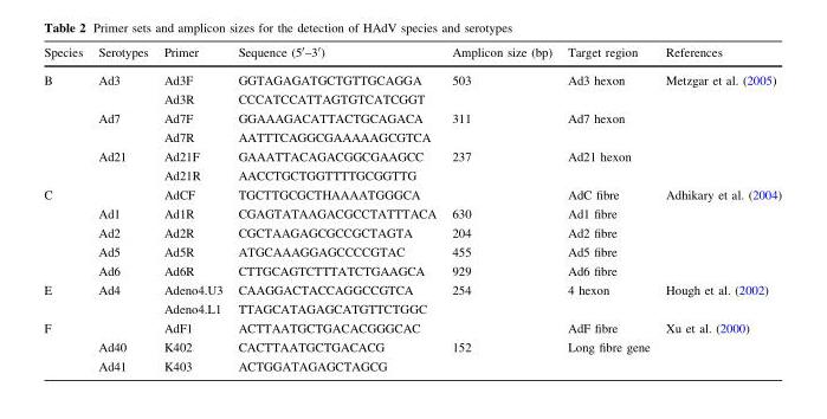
<table><thead><tr><td>Species</td><td>Serotypes</td><td>Primer</td><td>Sequence (5′–3′)</td><td>Amplicon size (bp)</td><td>Target region</td><td>References</td></tr></thead><tbody><tr><td rowspan="6">B</td><td rowspan="2">Ad3</td><td>Ad3F</td><td>GGTAGAGATGCTGTTGCAGGA</td><td rowspan="2">503</td><td rowspan="2">Ad3 hexon</td><td rowspan="2">Metzgar et al. (2005)</td></tr><tr><td>Ad3R</td><td>CCCATCCATTAGTGTCATCGGT</td></tr><tr><td rowspan="2">Ad7</td><td>Ad7F</td><td>GGAAAGACATTACTGCAGACA</td><td rowspan="2">311</td><td rowspan="2">Ad7 hexon</td><td rowspan="2"></td></tr><tr><td>Ad7R</td><td>AATTTCAGGCGAAAAAGCGTCA</td></tr><tr><td rowspan="2">Ad21</td><td>Ad21F</td><td>GAAATTACAGACGGCGAAGCC</td><td rowspan="2">237</td><td rowspan="2">Ad21 hexon</td><td rowspan="2"></td></tr><tr><td>Ad21R</td><td>AACCTGCTGGTTTTGCGGTTG</td></tr><tr><td rowspan="5">C</td><td></td><td>AdCF</td><td>TGCTTGCGCTHAAAATGGGCA</td><td></td><td>AdC fibre</td><td>Adhikary et al. (2004)</td></tr><tr><td>Ad1</td><td>Ad1R</td><td>CGAGTATAAGACGCCTATTTACA</td><td>630</td><td>Ad1 fibre</td><td></td></tr><tr><td>Ad2</td><td>Ad2R</td><td>CGCTAAGAGCGCCGCTAGTA</td><td>204</td><td>Ad2 fibre</td><td></td></tr><tr><td>Ad5</td><td>Ad5R</td><td>ATGCAAAGGAGCCCCGTAC</td><td>455</td><td>Ad5 fibre</td><td></td></tr><tr><td>Ad6</td><td>Ad6R</td><td>CTTGCAGTCTTTATCTGAAGCA</td><td>929</td><td>Ad6 fibre</td><td></td></tr><tr><td rowspan="2">E</td><td rowspan="2">Ad4</td><td>Adeno4.U3</td><td>CAAGGACTACCAGGCCGTCA</td><td rowspan="2">254</td><td rowspan="2">4 hexon</td><td rowspan="2">Hough et al. (2002)</td></tr><tr><td>Adeno4.L1</td><td>TTAGCATAGAGCATGTTCTGGC</td></tr><tr><td rowspan="3">F</td><td></td><td>AdF1</td><td>ACTTAATGCTGACACGGGCAC</td><td></td><td>AdF fibre</td><td>Xu et al. (2000)</td></tr><tr><td>Ad40</td><td>K402</td><td>CACTTAATGCTGACACG</td><td>152</td><td>Long fibre gene</td><td></td></tr><tr><td>Ad41</td><td>K403</td><td>ACTGGATAGAGCTAGCG</td><td></td><td></td><td></td></tr></tbody></table>